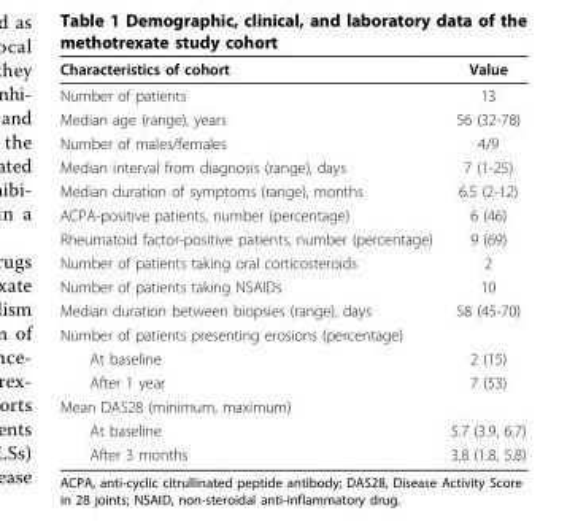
<table><thead><tr><td>Characteristics of cohort</td><td>Value</td></tr></thead><tbody><tr><td>Number of patients</td><td>13</td></tr><tr><td>Median age (range), years</td><td>56 (32-78)</td></tr><tr><td>Number of males/females</td><td>4/9</td></tr><tr><td>Median interval from diagnosis (range), days</td><td>7 (1-25)</td></tr><tr><td>Median duration of symptoms (range), months</td><td>6.5 (2-12)</td></tr><tr><td>ACPA-positive patients, number (percentage)</td><td>6 (46)</td></tr><tr><td>Rheumatoid factor-positive patients, number (percentage)</td><td>9 (69)</td></tr><tr><td>Number of patients taking oral corticosteroids</td><td>2</td></tr><tr><td>Number of patients taking NSAIDs</td><td>10</td></tr><tr><td>Median duration between biopsies (range), days</td><td>58 (45-70)</td></tr><tr><td colspan="2">Number of patients presenting erosions (percentage)</td></tr><tr><td>At baseline</td><td>2 (15)</td></tr><tr><td>After 1 year</td><td>7 (53)</td></tr><tr><td colspan="2">Mean DAS28 (minimum, maximum)</td></tr><tr><td>At baseline</td><td>5.7 (3.9, 6.7)</td></tr><tr><td>After 3 months</td><td>3.8 (1.8, 5.8)</td></tr></tbody></table>